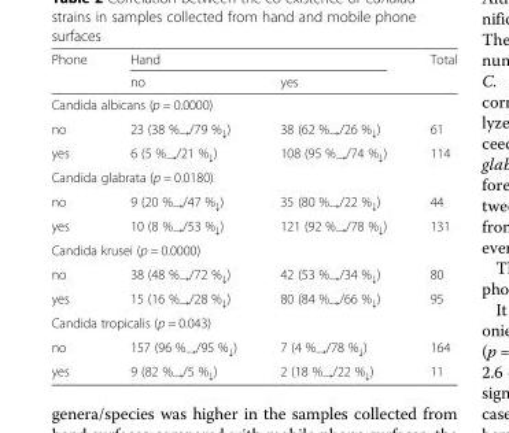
<table><thead><tr><td rowspan="2">Phone</td><td colspan="2">Hand</td><td rowspan="2">Total</td></tr><tr><td>no</td><td>yes</td></tr></thead><tbody><tr><td colspan="4">Candida albicans (p = 0.0000)</td></tr><tr><td>no</td><td>23 (38 %<sub>→</sub>/79 %<sub>↓</sub>)</td><td>38 (62 %<sub>→</sub>/26 %<sub>↓</sub>)</td><td>61</td></tr><tr><td>yes</td><td>6 (5 %<sub>→</sub>/21 %<sub>↓</sub>)</td><td>108 (95 %<sub>→</sub>/74 %<sub>↓</sub>)</td><td>114</td></tr><tr><td colspan="4">Candida glabrata (p = 0.0180)</td></tr><tr><td>no</td><td>9 (20 %<sub>→</sub>/47 %<sub>↓</sub>)</td><td>35 (80 %<sub>→</sub>/22 %<sub>↓</sub>)</td><td>44</td></tr><tr><td>yes</td><td>10 (8 %<sub>→</sub>/53 %<sub>↓</sub>)</td><td>121 (92 %<sub>→</sub>/78 %<sub>↓</sub>)</td><td>131</td></tr><tr><td colspan="4">Candida krusei (p = 0.0000)</td></tr><tr><td>no</td><td>38 (48 %<sub>→</sub>/72 %<sub>↓</sub>)</td><td>42 (53 %<sub>→</sub>/34 %<sub>↓</sub>)</td><td>80</td></tr><tr><td>yes</td><td>15 (16 %<sub>→</sub>/28 %<sub>↓</sub>)</td><td>80 (84 %<sub>→</sub>/66 %<sub>↓</sub>)</td><td>95</td></tr><tr><td colspan="4">Candida tropicalis (p = 0.043)</td></tr><tr><td>no</td><td>157 (96 %<sub>→</sub>/95 %<sub>↓</sub>)</td><td>7 (4 %<sub>→</sub>/78 %<sub>↓</sub>)</td><td>164</td></tr><tr><td>yes</td><td>9 (82 %<sub>→</sub>/5 %<sub>↓</sub>)</td><td>2 (18 %<sub>→</sub>/22 %<sub>↓</sub>)</td><td>11</td></tr></tbody></table>